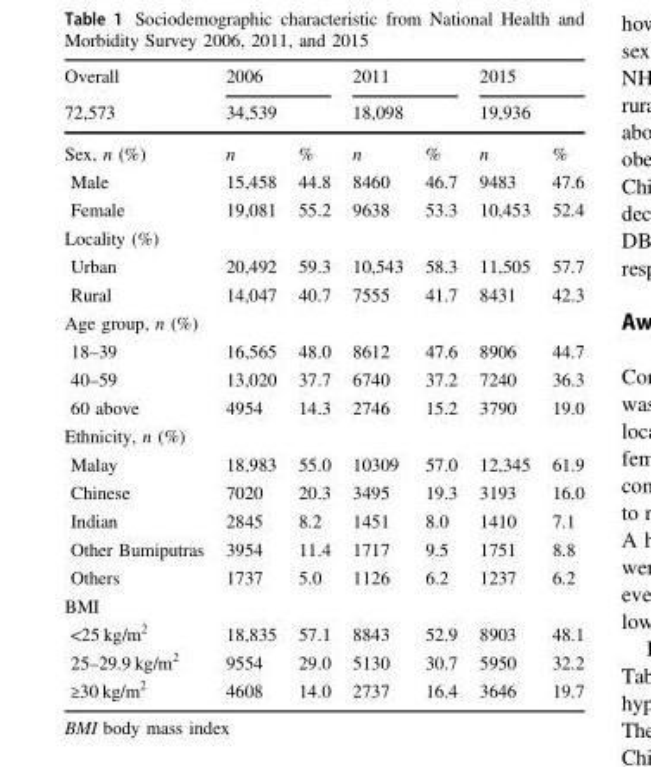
<table><thead><tr><td rowspan="3">Overall 72,573 Sex, n (%)</td><td rowspan="2" colspan="2">2006 34,539</td><td rowspan="2" colspan="2">2011 18,098</td><td rowspan="2" colspan="2">2015 19,936</td></tr><tr></tr><tr><td>n</td><td>%</td><td>n</td><td>%</td><td>n</td><td>%</td></tr></thead><tbody><tr><td>Male</td><td>15,458</td><td>44.8</td><td>8460</td><td>46.7</td><td>9483</td><td>47.6</td></tr><tr><td>Female</td><td>19,081</td><td>55.2</td><td>9638</td><td>53.3</td><td>10,453</td><td>52.4</td></tr><tr><td colspan="7">Locality (%)</td></tr><tr><td>Urban</td><td>20,492</td><td>59.3</td><td>10,543</td><td>58.3</td><td>11,505</td><td>57.7</td></tr><tr><td>Rural</td><td>14,047</td><td>40.7</td><td>7555</td><td>41.7</td><td>8431</td><td>42.3</td></tr><tr><td colspan="7">Age group, n (%)</td></tr><tr><td>18–39</td><td>16,565</td><td>48.0</td><td>8612</td><td>47.6</td><td>8906</td><td>44.7</td></tr><tr><td>40–59</td><td>13,020</td><td>37.7</td><td>6740</td><td>37.2</td><td>7240</td><td>36.3</td></tr><tr><td>60 above</td><td>4954</td><td>14.3</td><td>2746</td><td>15.2</td><td>3790</td><td>19.0</td></tr><tr><td colspan="7">Ethnicity, n (%)</td></tr><tr><td>Malay</td><td>18,983</td><td>55.0</td><td>10309</td><td>57.0</td><td>12,345</td><td>61.9</td></tr><tr><td>Chinese</td><td>7020</td><td>20.3</td><td>3495</td><td>19.3</td><td>3193</td><td>16.0</td></tr><tr><td>Indian</td><td>2845</td><td>8.2</td><td>1451</td><td>8.0</td><td>1410</td><td>7.1</td></tr><tr><td>Other Bumiputras</td><td>3954</td><td>11.4</td><td>1717</td><td>9.5</td><td>1751</td><td>8.8</td></tr><tr><td>Others</td><td>1737</td><td>5.0</td><td>1126</td><td>6.2</td><td>1237</td><td>6.2</td></tr><tr><td colspan="7">BMI</td></tr><tr><td>&lt;25 kg/m<sup>2</sup></td><td>18,835</td><td>57.1</td><td>8843</td><td>52.9</td><td>8903</td><td>48.1</td></tr><tr><td>25–29.9 kg/m<sup>2</sup></td><td>9554</td><td>29.0</td><td>5130</td><td>30.7</td><td>5950</td><td>32.2</td></tr><tr><td>≥30 kg/m<sup>2</sup></td><td>4608</td><td>14.0</td><td>2737</td><td>16.4</td><td>3646</td><td>19.7</td></tr></tbody></table>